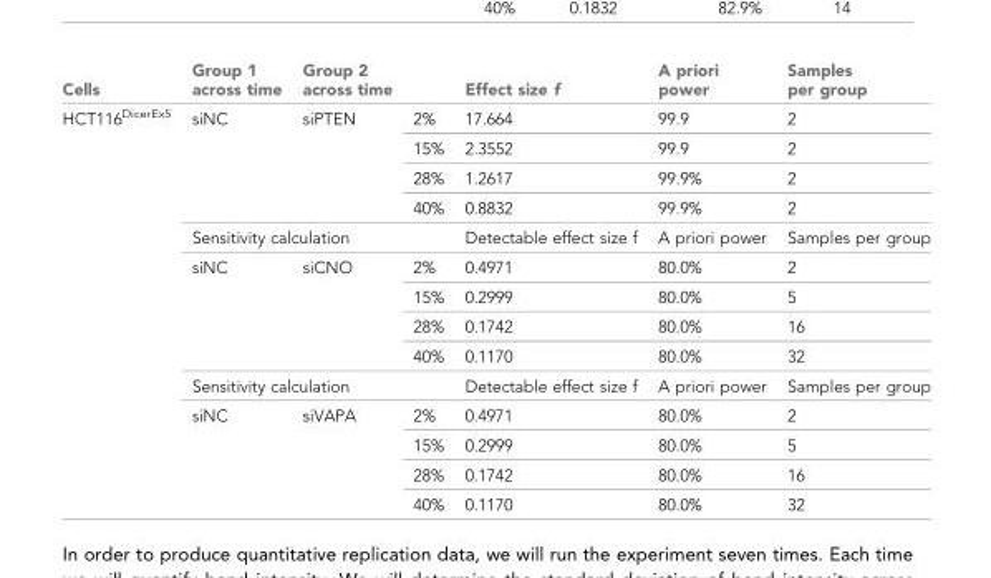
<table><thead><tr><td>Cells</td><td>Group 1 across time</td><td>Group 2 across time</td><td></td><td>Effect size f</td><td>A priori power</td><td>Samples per group</td></tr></thead><tbody><tr><td rowspan="14">HCT116<sup>DicerEx5</sup></td><td rowspan="4">siNC</td><td rowspan="4">siPTEN</td><td>2%</td><td>17.664</td><td>99.9</td><td>2</td></tr><tr><td>15%</td><td>2.3552</td><td>99.9</td><td>2</td></tr><tr><td>28%</td><td>1.2617</td><td>99.9%</td><td>2</td></tr><tr><td>40%</td><td>0.8832</td><td>99.9%</td><td>2</td></tr><tr><td colspan="3">Sensitivity calculation</td><td>Detectable effect size f</td><td>A priori power</td><td>Samples per group</td></tr><tr><td rowspan="4">siNC</td><td rowspan="4">siCNO</td><td>2%</td><td>0.4971</td><td>80.0%</td><td>2</td></tr><tr><td>15%</td><td>0.2999</td><td>80.0%</td><td>5</td></tr><tr><td>28%</td><td>0.1742</td><td>80.0%</td><td>16</td></tr><tr><td>40%</td><td>0.1170</td><td>80.0%</td><td>32</td></tr><tr><td colspan="3">Sensitivity calculation</td><td>Detectable effect size f</td><td>A priori power</td><td>Samples per group</td></tr><tr><td rowspan="4">siNC</td><td rowspan="4">siVAPA</td><td>2%</td><td>0.4971</td><td>80.0%</td><td>2</td></tr><tr><td>15%</td><td>0.2999</td><td>80.0%</td><td>5</td></tr><tr><td>28%</td><td>0.1742</td><td>80.0%</td><td>16</td></tr><tr><td>40%</td><td>0.1170</td><td>80.0%</td><td>32</td></tr></tbody></table>